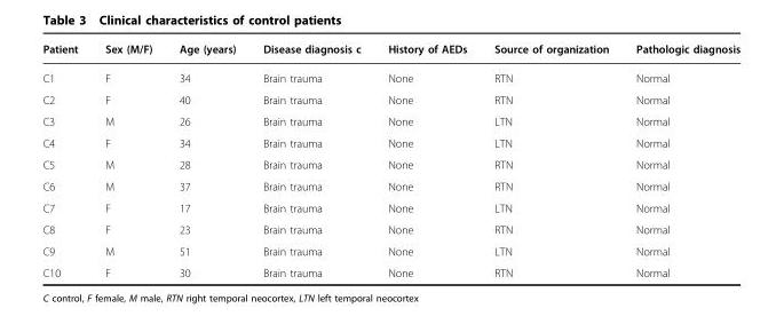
<table><thead><tr><td>Patient</td><td>Sex (M/F)</td><td>Age (years)</td><td>Disease diagnosis c</td><td>History of AEDs</td><td>Source of organization</td><td>Pathologic diagnosis</td></tr></thead><tbody><tr><td>C1</td><td>F</td><td>34</td><td>Brain trauma</td><td>None</td><td>RTN</td><td>Normal</td></tr><tr><td>C2</td><td>F</td><td>40</td><td>Brain trauma</td><td>None</td><td>RTN</td><td>Normal</td></tr><tr><td>C3</td><td>M</td><td>26</td><td>Brain trauma</td><td>None</td><td>LTN</td><td>Normal</td></tr><tr><td>C4</td><td>F</td><td>34</td><td>Brain trauma</td><td>None</td><td>LTN</td><td>Normal</td></tr><tr><td>C5</td><td>M</td><td>28</td><td>Brain trauma</td><td>None</td><td>RTN</td><td>Normal</td></tr><tr><td>C6</td><td>M</td><td>37</td><td>Brain trauma</td><td>None</td><td>RTN</td><td>Normal</td></tr><tr><td>C7</td><td>F</td><td>17</td><td>Brain trauma</td><td>None</td><td>LTN</td><td>Normal</td></tr><tr><td>C8</td><td>F</td><td>23</td><td>Brain trauma</td><td>None</td><td>RTN</td><td>Normal</td></tr><tr><td>C9</td><td>M</td><td>51</td><td>Brain trauma</td><td>None</td><td>LTN</td><td>Normal</td></tr><tr><td>C10</td><td>F</td><td>30</td><td>Brain trauma</td><td>None</td><td>RTN</td><td>Normal</td></tr></tbody></table>